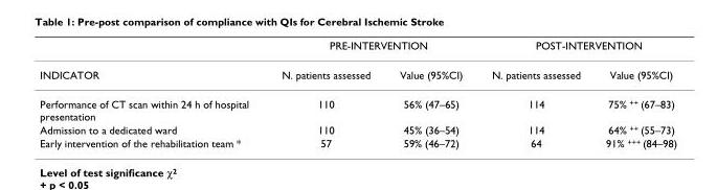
<table><thead><tr><td rowspan="2">INDICATOR</td><td colspan="2">PRE-INTERVENTION</td><td colspan="2">POST-INTERVENTION</td></tr><tr><td>N. patients assessed</td><td>Value (95%CI)</td><td>N. patients assessed</td><td>Value (95%CI)</td></tr></thead><tbody><tr><td>Performance of CT scan within 24 h of hospital presentation</td><td>110</td><td>56% (47–65)</td><td>114</td><td>75% <sup>++</sup> (67–83)</td></tr><tr><td>Admission to a dedicated ward</td><td>110</td><td>45% (36–54)</td><td>114</td><td>64% <sup>++</sup> (55–73)</td></tr><tr><td>Early intervention of the rehabilitation team *</td><td>57</td><td>59% (46–72)</td><td>64</td><td>91% <sup>+++</sup> (84–98)</td></tr></tbody></table>